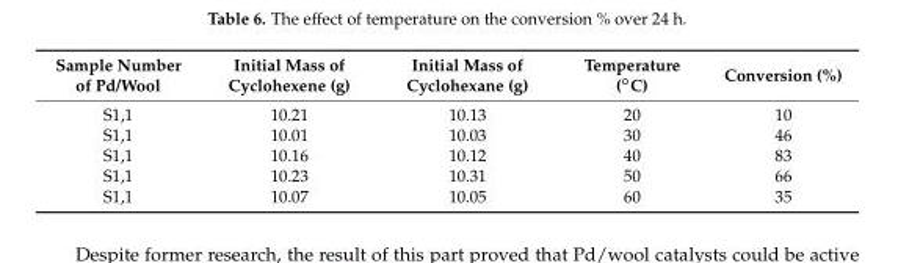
<table><thead><tr><td>Sample Number of Pd/Wool</td><td>Initial Mass of Cyclohexene (g)</td><td>Initial Mass of Cyclohexane (g)</td><td>Temperature (◦C)</td><td>Conversion (%)</td></tr></thead><tbody><tr><td>S1,1</td><td>10.21</td><td>10.13</td><td>20</td><td>10</td></tr><tr><td>S1,1</td><td>10.01</td><td>10.03</td><td>30</td><td>46</td></tr><tr><td>S1,1</td><td>10.16</td><td>10.12</td><td>40</td><td>83</td></tr><tr><td>S1,1</td><td>10.23</td><td>10.31</td><td>50</td><td>66</td></tr><tr><td>S1,1</td><td>10.07</td><td>10.05</td><td>60</td><td>35</td></tr></tbody></table>